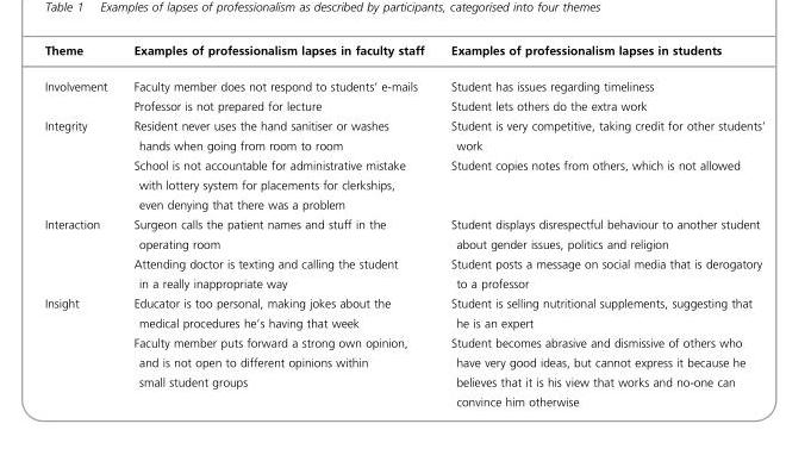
<table><thead><tr><td>Theme</td><td>Examples of professionalism lapses in faculty staff</td><td>Examples of professionalism lapses in students</td></tr></thead><tbody><tr><td rowspan="2">Involvement</td><td>Faculty member does not respond to students’ e-mails</td><td>Student has issues regarding timeliness</td></tr><tr><td>Professor is not prepared for lecture</td><td>Student lets others do the extra work</td></tr><tr><td rowspan="2">Integrity</td><td>Resident never uses the hand sanitiser or washes hands when going from room to room</td><td>Student is very competitive, taking credit for other students’ work</td></tr><tr><td>School is not accountable for administrative mistake with lottery system for placements for clerkships, even denying that there was a problem</td><td>Student copies notes from others, which is not allowed</td></tr><tr><td rowspan="2">Interaction</td><td>Surgeon calls the patient names and stuff in the operating room</td><td>Student displays disrespectful behaviour to another student about gender issues, politics and religion</td></tr><tr><td>Attending doctor is texting and calling the student in a really inappropriate way</td><td>Student posts a message on social media that is derogatory to a professor</td></tr><tr><td rowspan="2">Insight</td><td>Educator is too personal, making jokes about the medical procedures he’s having that week</td><td>Student is selling nutritional supplements, suggesting that he is an expert</td></tr><tr><td>Faculty member puts forward a strong own opinion, and is not open to different opinions within small student groups</td><td>Student becomes abrasive and dismissive of others who have very good ideas, but cannot express it because he believes that it is his view that works and no-one can convince him otherwise</td></tr></tbody></table>